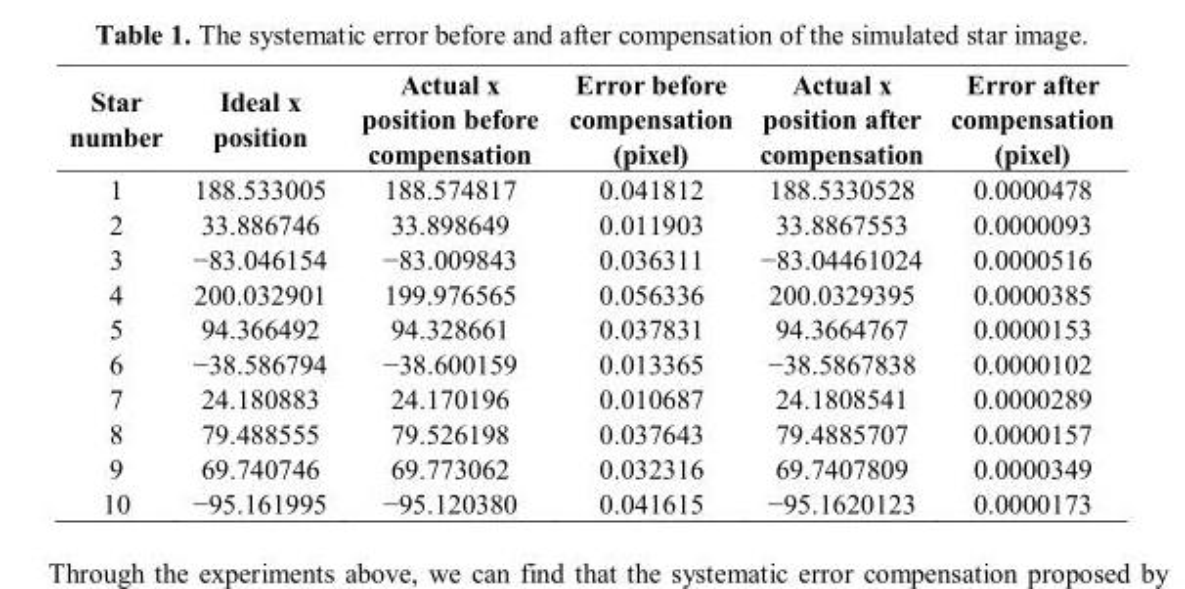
<table><thead><tr><td>Star number</td><td>Ideal x position</td><td>Actual x position before compensation</td><td>Error before compensation (pixel)</td><td>Actual x position after compensation</td><td>Error after compensation (pixel)</td></tr></thead><tbody><tr><td>1</td><td>188.533005</td><td>188.574817</td><td>0.041812</td><td>188.5330528</td><td>0.0000478</td></tr><tr><td>2</td><td>33.886746</td><td>33.898649</td><td>0.011903</td><td>33.8867553</td><td>0.0000093</td></tr><tr><td>3</td><td>−83.046154</td><td>−83.009843</td><td>0.036311</td><td>−83.04461024</td><td>0.0000516</td></tr><tr><td>4</td><td>200.032901</td><td>199.976565</td><td>0.056336</td><td>200.0329395</td><td>0.0000385</td></tr><tr><td>5</td><td>94.366492</td><td>94.328661</td><td>0.037831</td><td>94.3664767</td><td>0.0000153</td></tr><tr><td>6</td><td>−38.586794</td><td>−38.600159</td><td>0.013365</td><td>−38.5867838</td><td>0.0000102</td></tr><tr><td>7</td><td>24.180883</td><td>24.170196</td><td>0.010687</td><td>24.1808541</td><td>0.0000289</td></tr><tr><td>8</td><td>79.488555</td><td>79.526198</td><td>0.037643</td><td>79.4885707</td><td>0.0000157</td></tr><tr><td>9</td><td>69.740746</td><td>69.773062</td><td>0.032316</td><td>69.7407809</td><td>0.0000349</td></tr><tr><td>10</td><td>−95.161995</td><td>−95.120380</td><td>0.041615</td><td>−95.1620123</td><td>0.0000173</td></tr></tbody></table>